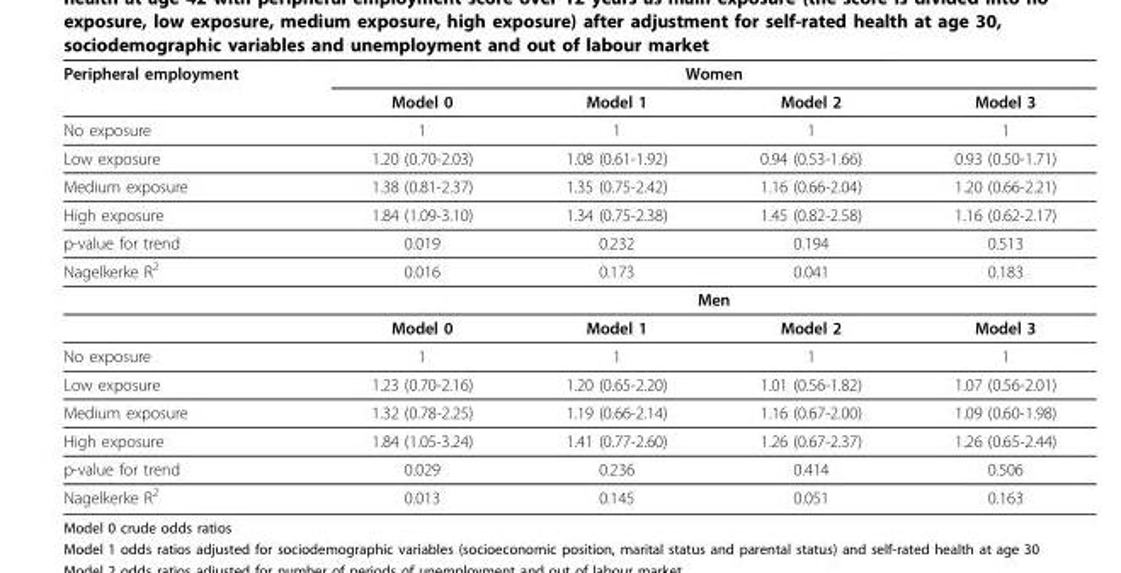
<table><thead><tr><td rowspan="2">Peripheral employment</td><td colspan="4">Women</td></tr><tr><td>Model 0</td><td>Model 1</td><td>Model 2</td><td>Model 3</td></tr></thead><tbody><tr><td>No exposure</td><td>1</td><td>1</td><td>1</td><td>1</td></tr><tr><td>Low exposure</td><td>1.20 (0.70-2.03)</td><td>1.08 (0.61-1.92)</td><td>0.94 (0.53-1.66)</td><td>0.93 (0.50-1.71)</td></tr><tr><td>Medium exposure</td><td>1.38 (0.81-2.37)</td><td>1.35 (0.75-2.42)</td><td>1.16 (0.66-2.04)</td><td>1.20 (0.66-2.21)</td></tr><tr><td>High exposure</td><td>1.84 (1.09-3.10)</td><td>1.34 (0.75-2.38)</td><td>1.45 (0.82-2.58)</td><td>1.16 (0.62-2.17)</td></tr><tr><td>p-value for trend</td><td>0.019</td><td>0.232</td><td>0.194</td><td>0.513</td></tr><tr><td rowspan="3">Nagelkerke R<sup>2</sup></td><td>0.016</td><td>0.173</td><td>0.041</td><td>0.183</td></tr><tr><td colspan="4">Men</td></tr><tr><td>Model 0</td><td>Model 1</td><td>Model 2</td><td>Model 3</td></tr><tr><td>No exposure</td><td>1</td><td>1</td><td>1</td><td>1</td></tr><tr><td>Low exposure</td><td>1.23 (0.70-2.16)</td><td>1.20 (0.65-2.20)</td><td>1.01 (0.56-1.82)</td><td>1.07 (0.56-2.01)</td></tr><tr><td>Medium exposure</td><td>1.32 (0.78-2.25)</td><td>1.19 (0.66-2.14)</td><td>1.16 (0.67-2.00)</td><td>1.09 (0.60-1.98)</td></tr><tr><td>High exposure</td><td>1.84 (1.05-3.24)</td><td>1.41 (0.77-2.60)</td><td>1.26 (0.67-2.37)</td><td>1.26 (0.65-2.44)</td></tr><tr><td>p-value for trend</td><td>0.029</td><td>0.236</td><td>0.414</td><td>0.506</td></tr><tr><td>Nagelkerke R<sup>2</sup></td><td>0.013</td><td>0.145</td><td>0.051</td><td>0.163</td></tr></tbody></table>